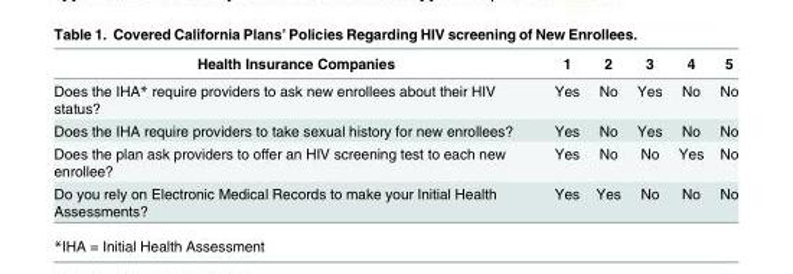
<table><thead><tr><td>Health Insurance Companies</td><td>1</td><td>2</td><td>3</td><td>4</td><td>5</td></tr></thead><tbody><tr><td>Does the IHA* require providers to ask new enrollees about their HIV status?</td><td>Yes</td><td>No</td><td>Yes</td><td>No</td><td>No</td></tr><tr><td>Does the IHA require providers to take sexual history for new enrollees?</td><td>Yes</td><td>No</td><td>Yes</td><td>No</td><td>No</td></tr><tr><td>Does the plan ask providers to offer an HIV screening test to each new enrollee?</td><td>Yes</td><td>No</td><td>No</td><td>Yes</td><td>No</td></tr><tr><td>Do you rely on Electronic Medical Records to make your Initial Health Assessments?</td><td>Yes</td><td>Yes</td><td>No</td><td>No</td><td>No</td></tr></tbody></table>